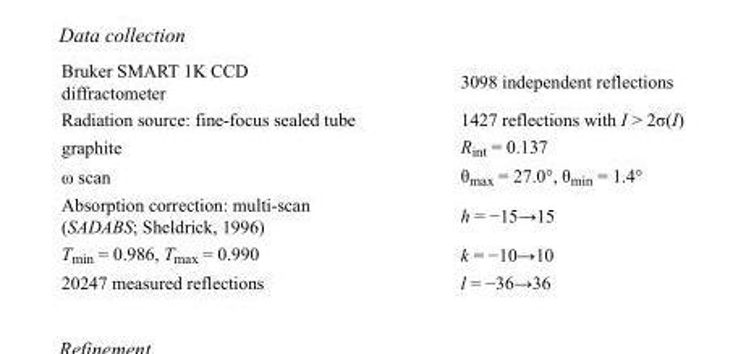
<table><tbody><tr><td>Bruker SMART 1K CCD diffractometer</td><td>3098 independent reflections</td></tr><tr><td>Radiation source: fine-focus sealed tube</td><td>1427 reflections with I &gt; 2σ(I)</td></tr><tr><td>graphite</td><td>R<sub>int</sub> = 0.137</td></tr><tr><td>ω scan</td><td>θ<sub>max</sub> = 27.0°, θ<sub>min</sub> = 1.4°</td></tr><tr><td>Absorption correction: multi-scan (SADABS; Sheldrick, 1996)</td><td>h = −15→15</td></tr><tr><td>T<sub>min</sub> = 0.986, T<sub>max</sub> = 0.990</td><td>k = −10→10</td></tr><tr><td>20247 measured reflections</td><td>l = −36→36</td></tr></tbody></table>